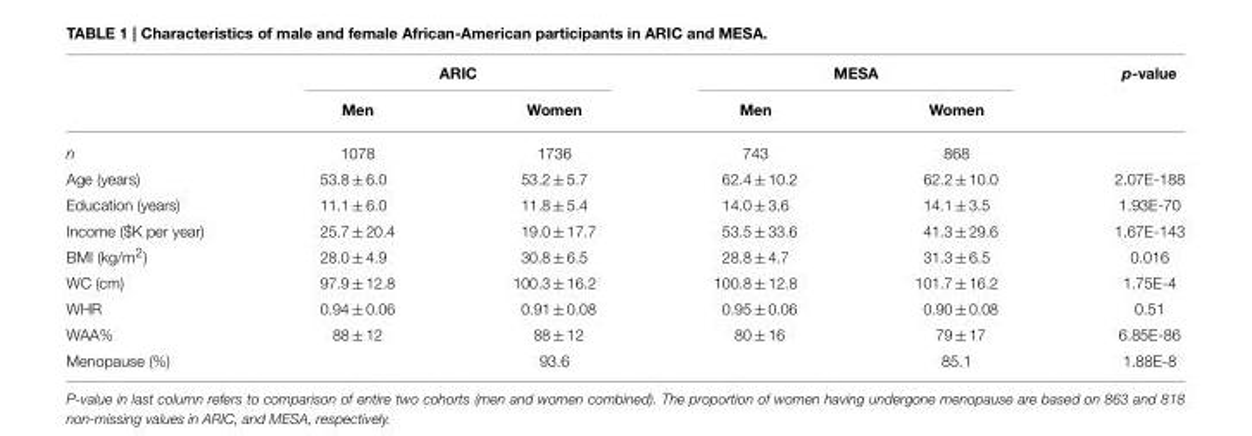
<table><thead><tr><td rowspan="2"></td><td colspan="2">ARIC</td><td colspan="2">MESA</td><td rowspan="2">p-value</td></tr><tr><td>Men</td><td>Women</td><td>Men</td><td>Women</td></tr></thead><tbody><tr><td>n</td><td>1078</td><td>1736</td><td>743</td><td>868</td><td></td></tr><tr><td>Age (years)</td><td>53.8 ± 6.0</td><td>53.2 ± 5.7</td><td>62.4 ± 10.2</td><td>62.2 ± 10.0</td><td>2.07E-188</td></tr><tr><td>Education (years)</td><td>11.1 ± 6.0</td><td>11.8 ± 5.4</td><td>14.0 ± 3.6</td><td>14.1 ± 3.5</td><td>1.93E-70</td></tr><tr><td>Income ($K per year)</td><td>25.7 ± 20.4</td><td>19.0 ± 17.7</td><td>53.5 ± 33.6</td><td>41.3 ± 29.6</td><td>1.67E-143</td></tr><tr><td>BMI (kg/m<sup>2</sup>)</td><td>28.0 ± 4.9</td><td>30.8 ± 6.5</td><td>28.8 ± 4.7</td><td>31.3 ± 6.5</td><td>0.016</td></tr><tr><td>WC (cm)</td><td>97.9 ± 12.8</td><td>100.3 ± 16.2</td><td>100.8 ± 12.8</td><td>101.7 ± 16.2</td><td>1.75E-4</td></tr><tr><td>WHR</td><td>0.94 ± 0.06</td><td>0.91 ± 0.08</td><td>0.95 ± 0.06</td><td>0.90 ± 0.08</td><td>0.51</td></tr><tr><td>WAA%</td><td>88 ± 12</td><td>88 ± 12</td><td>80 ± 16</td><td>79 ± 17</td><td>6.85E-86</td></tr><tr><td>Menopause (%)</td><td></td><td>93.6</td><td></td><td>85.1</td><td>1.88E-8</td></tr></tbody></table>